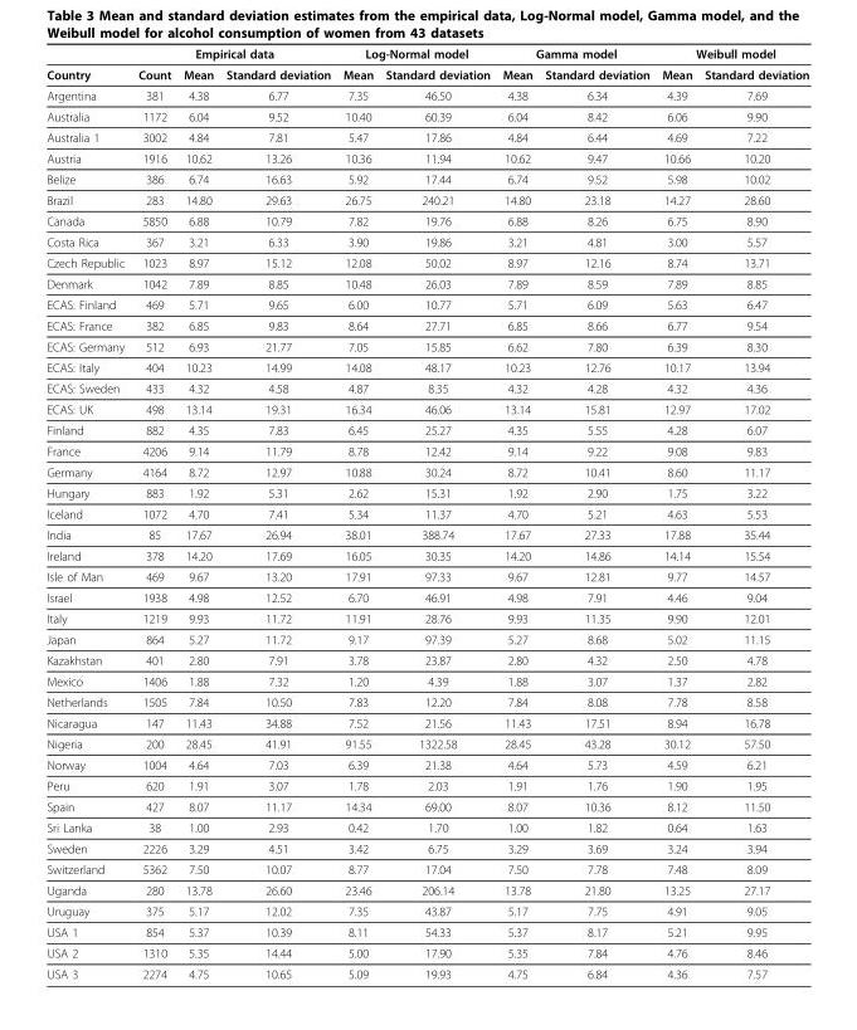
<table><thead><tr><td rowspan="2">Country</td><td colspan="3">Empirical data</td><td colspan="2">Log-Normal model</td><td colspan="2">Gamma model</td><td colspan="2">Weibull model</td></tr><tr><td>Count</td><td>Mean</td><td>Standard deviation</td><td>Mean</td><td>Standard deviation</td><td>Mean</td><td>Standard deviation</td><td>Mean</td><td>Standard deviation</td></tr></thead><tbody><tr><td>Argentina</td><td>381</td><td>4.38</td><td>6.77</td><td>7.35</td><td>46.50</td><td>4.38</td><td>6.34</td><td>4.39</td><td>7.69</td></tr><tr><td>Australia</td><td>1172</td><td>6.04</td><td>9.52</td><td>10.40</td><td>60.39</td><td>6.04</td><td>8.42</td><td>6.06</td><td>9.90</td></tr><tr><td>Australia 1</td><td>3002</td><td>4.84</td><td>7.81</td><td>5.47</td><td>17.86</td><td>4.84</td><td>6.44</td><td>4.69</td><td>7.22</td></tr><tr><td>Austria</td><td>1916</td><td>10.62</td><td>13.26</td><td>10.36</td><td>11.94</td><td>10.62</td><td>9.47</td><td>10.66</td><td>10.20</td></tr><tr><td>Belize</td><td>386</td><td>6.74</td><td>16.63</td><td>5.92</td><td>17.44</td><td>6.74</td><td>9.52</td><td>5.98</td><td>10.02</td></tr><tr><td>Brazil</td><td>283</td><td>14.80</td><td>29.63</td><td>26.75</td><td>240.21</td><td>14.80</td><td>23.18</td><td>14.27</td><td>28.60</td></tr><tr><td>Canada</td><td>5850</td><td>6.88</td><td>10.79</td><td>7.82</td><td>19.76</td><td>6.88</td><td>8.26</td><td>6.75</td><td>8.90</td></tr><tr><td>Costa Rica</td><td>367</td><td>3.21</td><td>6.33</td><td>3.90</td><td>19.86</td><td>3.21</td><td>4.81</td><td>3.00</td><td>5.57</td></tr><tr><td>Czech Republic</td><td>1023</td><td>8.97</td><td>15.12</td><td>12.08</td><td>50.02</td><td>8.97</td><td>12.16</td><td>8.74</td><td>13.71</td></tr><tr><td>Denmark</td><td>1042</td><td>7.89</td><td>8.85</td><td>10.48</td><td>26.03</td><td>7.89</td><td>8.59</td><td>7.89</td><td>8.85</td></tr><tr><td>ECAS: Finland</td><td>469</td><td>5.71</td><td>9.65</td><td>6.00</td><td>10.77</td><td>5.71</td><td>6.09</td><td>5.63</td><td>6.47</td></tr><tr><td>ECAS: France</td><td>382</td><td>6.85</td><td>9.83</td><td>8.64</td><td>27.71</td><td>6.85</td><td>8.66</td><td>6.77</td><td>9.54</td></tr><tr><td>ECAS: Germany</td><td>512</td><td>6.93</td><td>21.77</td><td>7.05</td><td>15.85</td><td>6.62</td><td>7.80</td><td>6.39</td><td>8.30</td></tr><tr><td>ECAS: Italy</td><td>404</td><td>10.23</td><td>14.99</td><td>14.08</td><td>48.17</td><td>10.23</td><td>12.76</td><td>10.17</td><td>13.94</td></tr><tr><td>ECAS: Sweden</td><td>433</td><td>4.32</td><td>4.58</td><td>4.87</td><td>8.35</td><td>4.32</td><td>4.28</td><td>4.32</td><td>4.36</td></tr><tr><td>ECAS: UK</td><td>498</td><td>13.14</td><td>19.31</td><td>16.34</td><td>46.06</td><td>13.14</td><td>15.81</td><td>12.97</td><td>17.02</td></tr><tr><td>Finland</td><td>882</td><td>4.35</td><td>7.83</td><td>6.45</td><td>25.27</td><td>4.35</td><td>5.55</td><td>4.28</td><td>6.07</td></tr><tr><td>France</td><td>4206</td><td>9.14</td><td>11.79</td><td>8.78</td><td>12.42</td><td>9.14</td><td>9.22</td><td>9.08</td><td>9.83</td></tr><tr><td>Germany</td><td>4164</td><td>8.72</td><td>12.97</td><td>10.88</td><td>30.24</td><td>8.72</td><td>10.41</td><td>8.60</td><td>11.17</td></tr><tr><td>Hungary</td><td>883</td><td>1.92</td><td>5.31</td><td>2.62</td><td>15.31</td><td>1.92</td><td>2.90</td><td>1.75</td><td>3.22</td></tr><tr><td>Iceland</td><td>1072</td><td>4.70</td><td>7.41</td><td>5.34</td><td>11.37</td><td>4.70</td><td>5.21</td><td>4.63</td><td>5.53</td></tr><tr><td>India</td><td>85</td><td>17.67</td><td>26.94</td><td>38.01</td><td>388.74</td><td>17.67</td><td>27.33</td><td>17.88</td><td>35.44</td></tr><tr><td>Ireland</td><td>378</td><td>14.20</td><td>17.69</td><td>16.05</td><td>30.35</td><td>14.20</td><td>14.86</td><td>14.14</td><td>15.54</td></tr><tr><td>Isle of Man</td><td>469</td><td>9.67</td><td>13.20</td><td>17.91</td><td>97.33</td><td>9.67</td><td>12.81</td><td>9.77</td><td>14.57</td></tr><tr><td>Israel</td><td>1938</td><td>4.98</td><td>12.52</td><td>6.70</td><td>46.91</td><td>4.98</td><td>7.91</td><td>4.46</td><td>9.04</td></tr><tr><td>Italy</td><td>1219</td><td>9.93</td><td>11.72</td><td>11.91</td><td>28.76</td><td>9.93</td><td>11.35</td><td>9.90</td><td>12.01</td></tr><tr><td>Japan</td><td>864</td><td>5.27</td><td>11.72</td><td>9.17</td><td>97.39</td><td>5.27</td><td>8.68</td><td>5.02</td><td>11.15</td></tr><tr><td>Kazakhstan</td><td>401</td><td>2.80</td><td>7.91</td><td>3.78</td><td>23.87</td><td>2.80</td><td>4.32</td><td>2.50</td><td>4.78</td></tr><tr><td>Mexico</td><td>1406</td><td>1.88</td><td>7.32</td><td>1.20</td><td>4.39</td><td>1.88</td><td>3.07</td><td>1.37</td><td>2.82</td></tr><tr><td>Netherlands</td><td>1505</td><td>7.84</td><td>10.50</td><td>7.83</td><td>12.20</td><td>7.84</td><td>8.08</td><td>7.78</td><td>8.58</td></tr><tr><td>Nicaragua</td><td>147</td><td>11.43</td><td>34.88</td><td>7.52</td><td>21.56</td><td>11.43</td><td>17.51</td><td>8.94</td><td>16.78</td></tr><tr><td>Nigeria</td><td>200</td><td>28.45</td><td>41.91</td><td>91.55</td><td>1322.58</td><td>28.45</td><td>43.28</td><td>30.12</td><td>57.50</td></tr><tr><td>Norway</td><td>1004</td><td>4.64</td><td>7.03</td><td>6.39</td><td>21.38</td><td>4.64</td><td>5.73</td><td>4.59</td><td>6.21</td></tr><tr><td>Peru</td><td>620</td><td>1.91</td><td>3.07</td><td>1.78</td><td>2.03</td><td>1.91</td><td>1.76</td><td>1.90</td><td>1.95</td></tr><tr><td>Spain</td><td>427</td><td>8.07</td><td>11.17</td><td>14.34</td><td>69.00</td><td>8.07</td><td>10.36</td><td>8.12</td><td>11.50</td></tr><tr><td>Sri Lanka</td><td>38</td><td>1.00</td><td>2.93</td><td>0.42</td><td>1.70</td><td>1.00</td><td>1.82</td><td>0.64</td><td>1.63</td></tr><tr><td>Sweden</td><td>2226</td><td>3.29</td><td>4.51</td><td>3.42</td><td>6.75</td><td>3.29</td><td>3.69</td><td>3.24</td><td>3.94</td></tr><tr><td>Switzerland</td><td>5362</td><td>7.50</td><td>10.07</td><td>8.77</td><td>17.04</td><td>7.50</td><td>7.78</td><td>7.48</td><td>8.09</td></tr><tr><td>Uganda</td><td>280</td><td>13.78</td><td>26.60</td><td>23.46</td><td>206.14</td><td>13.78</td><td>21.80</td><td>13.25</td><td>27.17</td></tr><tr><td>Uruguay</td><td>375</td><td>5.17</td><td>12.02</td><td>7.35</td><td>43.87</td><td>5.17</td><td>7.75</td><td>4.91</td><td>9.05</td></tr><tr><td>USA 1</td><td>854</td><td>5.37</td><td>10.39</td><td>8.11</td><td>54.33</td><td>5.37</td><td>8.17</td><td>5.21</td><td>9.95</td></tr><tr><td>USA 2</td><td>1310</td><td>5.35</td><td>14.44</td><td>5.00</td><td>17.90</td><td>5.35</td><td>7.84</td><td>4.76</td><td>8.46</td></tr><tr><td>USA 3</td><td>2274</td><td>4.75</td><td>10.65</td><td>5.09</td><td>19.93</td><td>4.75</td><td>6.84</td><td>4.36</td><td>7.57</td></tr></tbody></table>